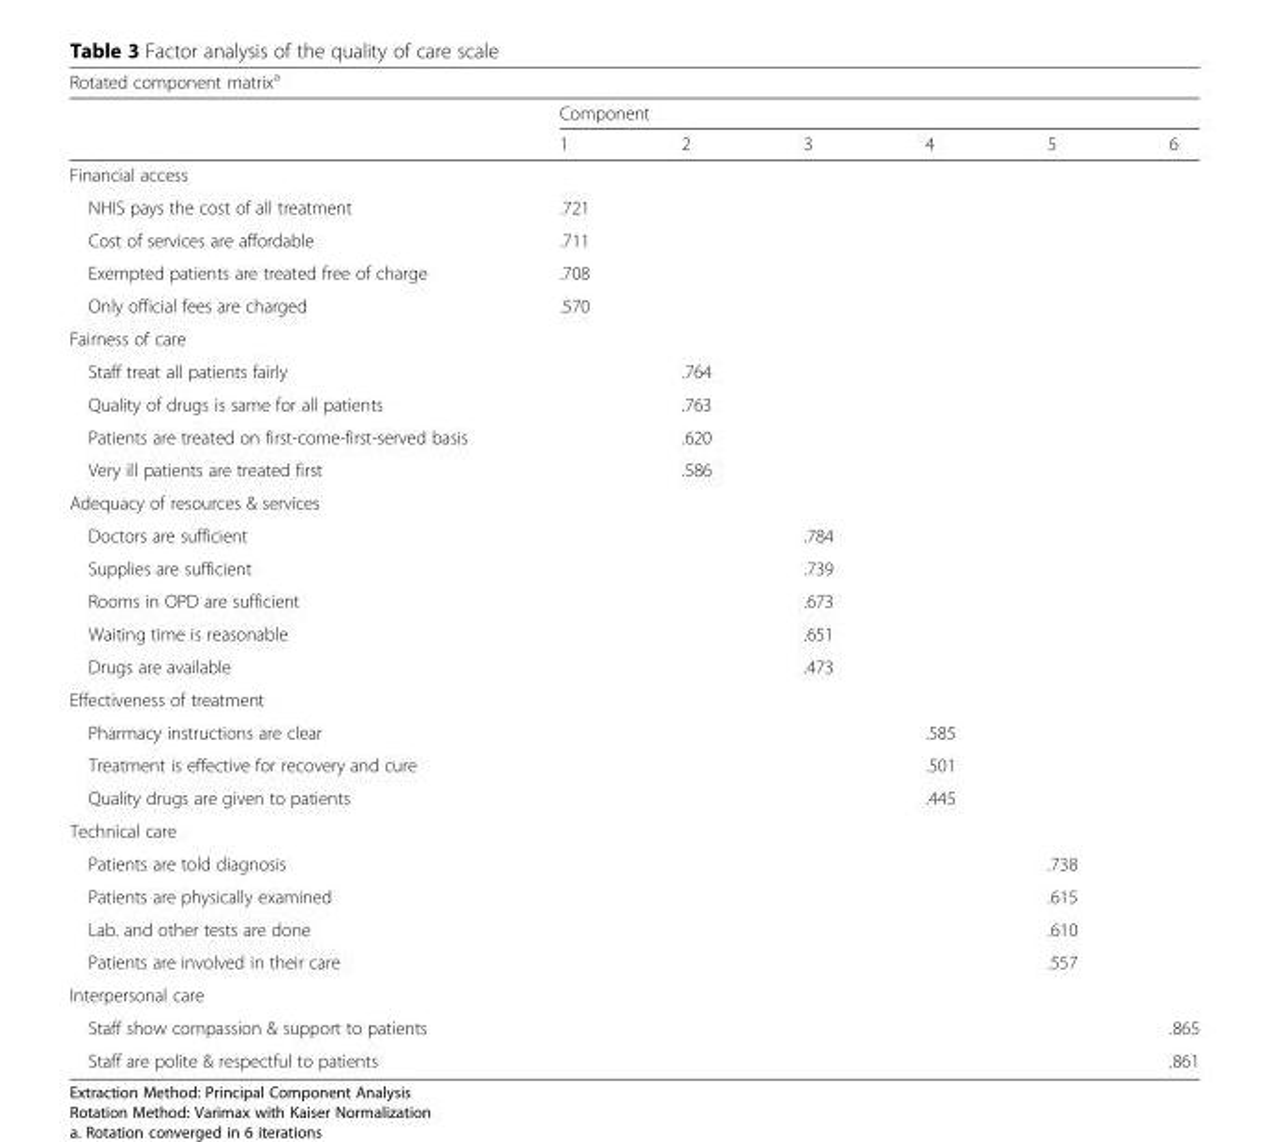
<table><thead><tr><td colspan="7">Rotated component matrix<sup>a</sup></td></tr><tr><td rowspan="2"></td><td colspan="6">Component</td></tr><tr><td>1</td><td>2</td><td>3</td><td>4</td><td>5</td><td>6</td></tr></thead><tbody><tr><td colspan="7">Financial access</td></tr><tr><td>NHIS pays the cost of all treatment</td><td>.721</td><td></td><td></td><td></td><td></td><td></td></tr><tr><td>Cost of services are affordable</td><td>.711</td><td></td><td></td><td></td><td></td><td></td></tr><tr><td>Exempted patients are treated free of charge</td><td>.708</td><td></td><td></td><td></td><td></td><td></td></tr><tr><td>Only official fees are charged</td><td>.570</td><td></td><td></td><td></td><td></td><td></td></tr><tr><td colspan="7">Fairness of care</td></tr><tr><td>Staff treat all patients fairly</td><td></td><td>.764</td><td></td><td></td><td></td><td></td></tr><tr><td>Quality of drugs is same for all patients</td><td></td><td>.763</td><td></td><td></td><td></td><td></td></tr><tr><td>Patients are treated on first-come-first-served basis</td><td></td><td>.620</td><td></td><td></td><td></td><td></td></tr><tr><td>Very ill patients are treated first</td><td></td><td>.586</td><td></td><td></td><td></td><td></td></tr><tr><td colspan="7">Adequacy of resources &amp; services</td></tr><tr><td>Doctors are sufficient</td><td></td><td></td><td>.784</td><td></td><td></td><td></td></tr><tr><td>Supplies are sufficient</td><td></td><td></td><td>.739</td><td></td><td></td><td></td></tr><tr><td>Rooms in OPD are sufficient</td><td></td><td></td><td>.673</td><td></td><td></td><td></td></tr><tr><td>Waiting time is reasonable</td><td></td><td></td><td>.651</td><td></td><td></td><td></td></tr><tr><td>Drugs are available</td><td></td><td></td><td>.473</td><td></td><td></td><td></td></tr><tr><td colspan="7">Effectiveness of treatment</td></tr><tr><td>Pharmacy instructions are clear</td><td></td><td></td><td></td><td>.585</td><td></td><td></td></tr><tr><td>Treatment is effective for recovery and cure</td><td></td><td></td><td></td><td>.501</td><td></td><td></td></tr><tr><td>Quality drugs are given to patients</td><td></td><td></td><td></td><td>.445</td><td></td><td></td></tr><tr><td colspan="7">Technical care</td></tr><tr><td>Patients are told diagnosis</td><td></td><td></td><td></td><td></td><td>.738</td><td></td></tr><tr><td>Patients are physically examined</td><td></td><td></td><td></td><td></td><td>.615</td><td></td></tr><tr><td>Lab. and other tests are done</td><td></td><td></td><td></td><td></td><td>.610</td><td></td></tr><tr><td>Patients are involved in their care</td><td></td><td></td><td></td><td></td><td>.557</td><td></td></tr><tr><td colspan="7">Interpersonal care</td></tr><tr><td>Staff show compassion &amp; support to patients</td><td></td><td></td><td></td><td></td><td></td><td>.865</td></tr><tr><td>Staff are polite &amp; respectful to patients</td><td></td><td></td><td></td><td></td><td></td><td>.861</td></tr></tbody></table>